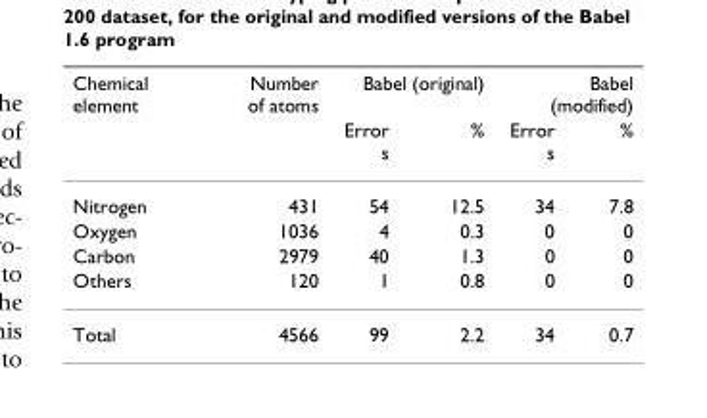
<table><thead><tr><td rowspan="2">Chemical element</td><td rowspan="2">Number of atoms</td><td colspan="2">Babel (original)</td><td colspan="2">Babel (modified)</td></tr><tr><td>Error s</td><td>%</td><td>Error s</td><td>%</td></tr></thead><tbody><tr><td>Nitrogen</td><td>431</td><td>54</td><td>12.5</td><td>34</td><td>7.8</td></tr><tr><td>Oxygen</td><td>1036</td><td>4</td><td>0.3</td><td>0</td><td>0</td></tr><tr><td>Carbon</td><td>2979</td><td>40</td><td>1.3</td><td>0</td><td>0</td></tr><tr><td>Others</td><td>120</td><td>1</td><td>0.8</td><td>0</td><td>0</td></tr><tr><td>Total</td><td>4566</td><td>99</td><td>2.2</td><td>34</td><td>0.7</td></tr></tbody></table>